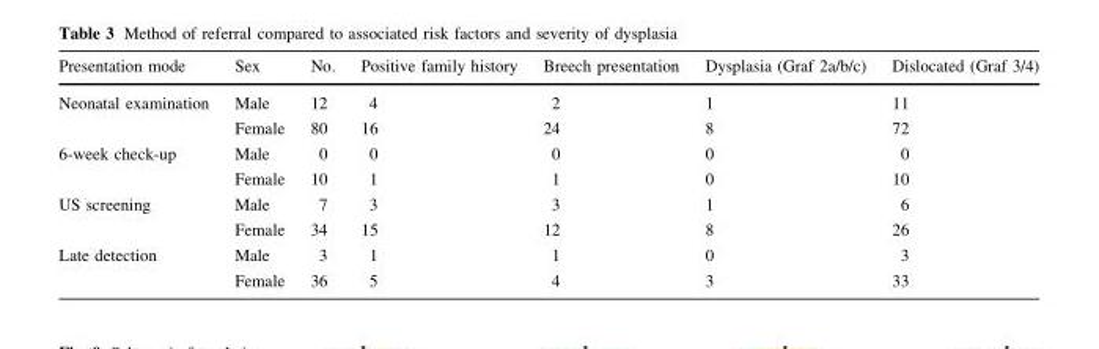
<table><thead><tr><td>Presentation mode</td><td>Sex</td><td>No.</td><td>Positive family history</td><td>Breech presentation</td><td>Dysplasia (Graf 2a/b/c)</td><td>Dislocated (Graf 3/4)</td></tr></thead><tbody><tr><td rowspan="2">Neonatal examination</td><td>Male</td><td>12</td><td>4</td><td>2</td><td>1</td><td>11</td></tr><tr><td>Female</td><td>80</td><td>16</td><td>24</td><td>8</td><td>72</td></tr><tr><td rowspan="2">6-week check-up</td><td>Male</td><td>0</td><td>0</td><td>0</td><td>0</td><td>0</td></tr><tr><td>Female</td><td>10</td><td>1</td><td>1</td><td>0</td><td>10</td></tr><tr><td rowspan="2">US screening</td><td>Male</td><td>7</td><td>3</td><td>3</td><td>1</td><td>6</td></tr><tr><td>Female</td><td>34</td><td>15</td><td>12</td><td>8</td><td>26</td></tr><tr><td rowspan="2">Late detection</td><td>Male</td><td>3</td><td>1</td><td>1</td><td>0</td><td>3</td></tr><tr><td>Female</td><td>36</td><td>5</td><td>4</td><td>3</td><td>33</td></tr></tbody></table>